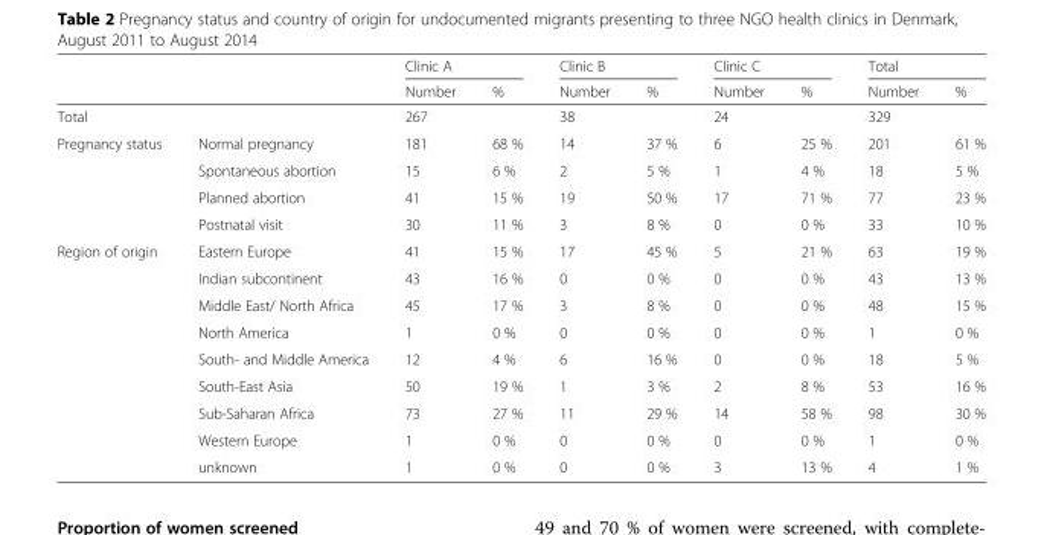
<table><thead><tr><td rowspan="2"></td><td rowspan="2"></td><td colspan="2">Clinic A</td><td colspan="2">Clinic B</td><td colspan="2">Clinic C</td><td colspan="2">Total</td></tr><tr><td>Number</td><td>%</td><td>Number</td><td>%</td><td>Number</td><td>%</td><td>Number</td><td>%</td></tr></thead><tbody><tr><td colspan="2">Total</td><td>267</td><td></td><td>38</td><td></td><td>24</td><td></td><td>329</td><td></td></tr><tr><td rowspan="4">Pregnancy status</td><td>Normal pregnancy</td><td>181</td><td>68 %</td><td>14</td><td>37 %</td><td>6</td><td>25 %</td><td>201</td><td>61 %</td></tr><tr><td>Spontaneous abortion</td><td>15</td><td>6 %</td><td>2</td><td>5 %</td><td>1</td><td>4 %</td><td>18</td><td>5 %</td></tr><tr><td>Planned abortion</td><td>41</td><td>15 %</td><td>19</td><td>50 %</td><td>17</td><td>71 %</td><td>77</td><td>23 %</td></tr><tr><td>Postnatal visit</td><td>30</td><td>11 %</td><td>3</td><td>8 %</td><td>0</td><td>0 %</td><td>33</td><td>10 %</td></tr><tr><td rowspan="9">Region of origin</td><td>Eastern Europe</td><td>41</td><td>15 %</td><td>17</td><td>45 %</td><td>5</td><td>21 %</td><td>63</td><td>19 %</td></tr><tr><td>Indian subcontinent</td><td>43</td><td>16 %</td><td>0</td><td>0 %</td><td>0</td><td>0 %</td><td>43</td><td>13 %</td></tr><tr><td>Middle East/ North Africa</td><td>45</td><td>17 %</td><td>3</td><td>8 %</td><td>0</td><td>0 %</td><td>48</td><td>15 %</td></tr><tr><td>North America</td><td>1</td><td>0 %</td><td>0</td><td>0 %</td><td>0</td><td>0 %</td><td>1</td><td>0 %</td></tr><tr><td>South- and Middle America</td><td>12</td><td>4 %</td><td>6</td><td>16 %</td><td>0</td><td>0 %</td><td>18</td><td>5 %</td></tr><tr><td>South-East Asia</td><td>50</td><td>19 %</td><td>1</td><td>3 %</td><td>2</td><td>8 %</td><td>53</td><td>16 %</td></tr><tr><td>Sub-Saharan Africa</td><td>73</td><td>27 %</td><td>11</td><td>29 %</td><td>14</td><td>58 %</td><td>98</td><td>30 %</td></tr><tr><td>Western Europe</td><td>1</td><td>0 %</td><td>0</td><td>0 %</td><td>0</td><td>0 %</td><td>1</td><td>0 %</td></tr><tr><td>unknown</td><td>1</td><td>0 %</td><td>0</td><td>0 %</td><td>3</td><td>13 %</td><td>4</td><td>1 %</td></tr></tbody></table>